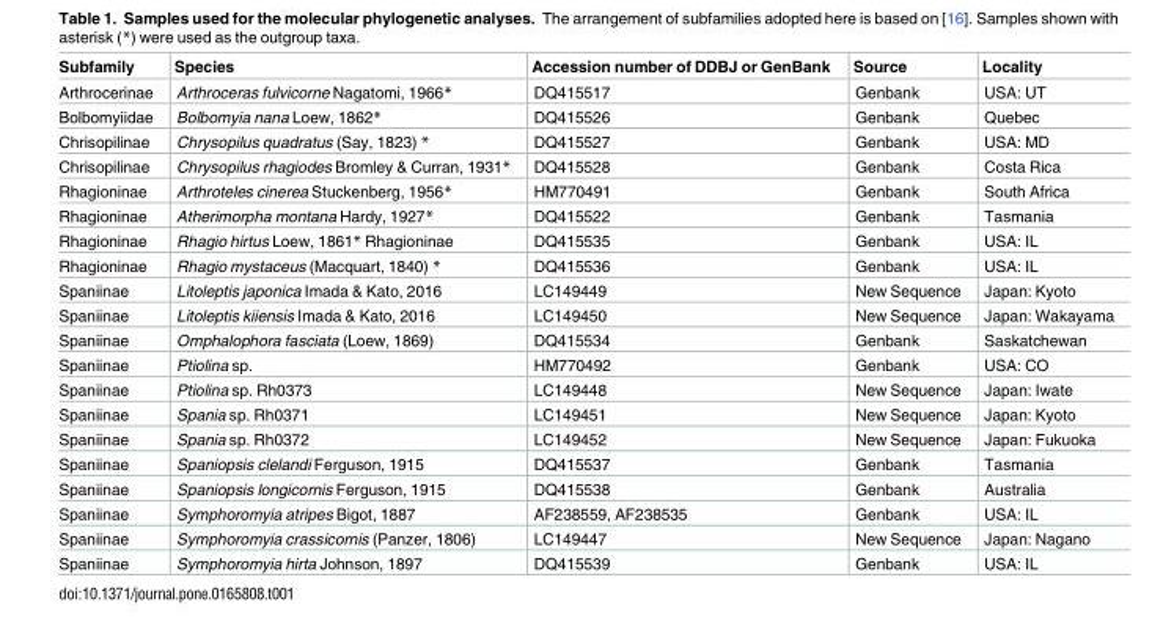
<table><thead><tr><td>Subfamily</td><td>Species</td><td>Accession number of DDBJ or GenBank</td><td>Source</td><td>Locality</td></tr></thead><tbody><tr><td>Arthrocerinae</td><td>Arthroceras fulvicorne Nagatomi, 1966*</td><td>DQ415517</td><td>Genbank</td><td>USA: UT</td></tr><tr><td>Bolbomyiidae</td><td>Bolbomyia nana Loew, 1862*</td><td>DQ415526</td><td>Genbank</td><td>Quebec</td></tr><tr><td>Chrisopilinae</td><td>Chrysopilus quadratus (Say, 1823) *</td><td>DQ415527</td><td>Genbank</td><td>USA: MD</td></tr><tr><td>Chrisopilinae</td><td>Chrysopilus rhagiodes Bromley &amp; Curran, 1931*</td><td>DQ415528</td><td>Genbank</td><td>Costa Rica</td></tr><tr><td>Rhagioninae</td><td>Arthroteles cinerea Stuckenberg, 1956*</td><td>HM770491</td><td>Genbank</td><td>South Africa</td></tr><tr><td>Rhagioninae</td><td>Atherimorpha montana Hardy, 1927*</td><td>DQ415522</td><td>Genbank</td><td>Tasmania</td></tr><tr><td>Rhagioninae</td><td>Rhagio hirtus Loew, 1861* Rhagioninae</td><td>DQ415535</td><td>Genbank</td><td>USA: IL</td></tr><tr><td>Rhagioninae</td><td>Rhagio mystaceus (Macquart, 1840) *</td><td>DQ415536</td><td>Genbank</td><td>USA: IL</td></tr><tr><td>Spaniinae</td><td>Litoleptis japonica Imada &amp; Kato, 2016</td><td>LC149449</td><td>New Sequence</td><td>Japan: Kyoto</td></tr><tr><td>Spaniinae</td><td>Litoleptis kiiensis Imada &amp; Kato, 2016</td><td>LC149450</td><td>New Sequence</td><td>Japan: Wakayama</td></tr><tr><td>Spaniinae</td><td>Omphalophora fasciata (Loew, 1869)</td><td>DQ415534</td><td>Genbank</td><td>Saskatchewan</td></tr><tr><td>Spaniinae</td><td>Ptiolina sp.</td><td>HM770492</td><td>Genbank</td><td>USA: CO</td></tr><tr><td>Spaniinae</td><td>Ptiolina sp. Rh0373</td><td>LC149448</td><td>New Sequence</td><td>Japan: Iwate</td></tr><tr><td>Spaniinae</td><td>Spania sp. Rh0371</td><td>LC149451</td><td>New Sequence</td><td>Japan: Kyoto</td></tr><tr><td>Spaniinae</td><td>Spania sp. Rh0372</td><td>LC149452</td><td>New Sequence</td><td>Japan: Fukuoka</td></tr><tr><td>Spaniinae</td><td>Spaniopsis clelandi Ferguson, 1915</td><td>DQ415537</td><td>Genbank</td><td>Tasmania</td></tr><tr><td>Spaniinae</td><td>Spaniopsis longicornis Ferguson, 1915</td><td>DQ415538</td><td>Genbank</td><td>Australia</td></tr><tr><td>Spaniinae</td><td>Symphoromyia atripes Bigot, 1887</td><td>AF238559, AF238535</td><td>Genbank</td><td>USA: IL</td></tr><tr><td>Spaniinae</td><td>Symphoromyia crassicornis (Panzer, 1806)</td><td>LC149447</td><td>New Sequence</td><td>Japan: Nagano</td></tr><tr><td>Spaniinae</td><td>Symphoromyia hirta Johnson, 1897</td><td>DQ415539</td><td>Genbank</td><td>USA: IL</td></tr></tbody></table>